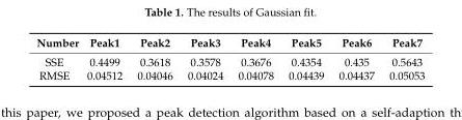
<table><thead><tr><td>Number</td><td>Peak1</td><td>Peak2</td><td>Peak3</td><td>Peak4</td><td>Peak5</td><td>Peak6</td><td>Peak7</td></tr></thead><tbody><tr><td>SSE</td><td>0.4499</td><td>0.3618</td><td>0.3578</td><td>0.3676</td><td>0.4354</td><td>0.435</td><td>0.5643</td></tr><tr><td>RMSE</td><td>0.04512</td><td>0.04046</td><td>0.04024</td><td>0.04078</td><td>0.04439</td><td>0.04437</td><td>0.05053</td></tr></tbody></table>